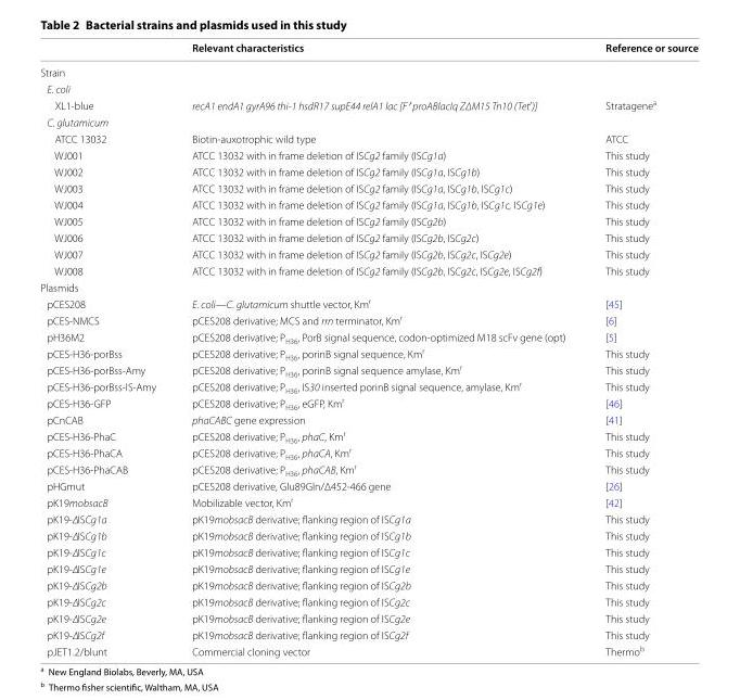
<table><thead><tr><td></td><td>Relevant characteristics</td><td>Reference or source</td></tr></thead><tbody><tr><td colspan="3">Strain</td></tr><tr><td colspan="3">E. coli</td></tr><tr><td>XL1-blue</td><td>recA1 endA1 gyrA96 thi-1 hsdR17 supE44 relA1 lac [F′ proABlacIq ZΔM15 Tn10 (Tet<sup>r</sup>)]</td><td>Stratagene<sup>a</sup></td></tr><tr><td colspan="3">C. glutamicum</td></tr><tr><td>ATCC 13032</td><td>Biotin-auxotrophic wild type</td><td>ATCC</td></tr><tr><td>WJ001</td><td>ATCC 13032 with in frame deletion of ISCg2 family (ISCg1a)</td><td>This study</td></tr><tr><td>WJ002</td><td>ATCC 13032 with in frame deletion of ISCg2 family (ISCg1a, ISCg1b)</td><td>This study</td></tr><tr><td>WJ003</td><td>ATCC 13032 with in frame deletion of ISCg2 family (ISCg1a, ISCg1b, ISCg1c)</td><td>This study</td></tr><tr><td>WJ004</td><td>ATCC 13032 with in frame deletion of ISCg2 family (ISCg1a, ISCg1b, ISCg1c, ISCg1e)</td><td>This study</td></tr><tr><td>WJ005</td><td>ATCC 13032 with in frame deletion of ISCg2 family (ISCg2b)</td><td>This study</td></tr><tr><td>WJ006</td><td>ATCC 13032 with in frame deletion of ISCg2 family (ISCg2b, ISCg2c)</td><td>This study</td></tr><tr><td>WJ007</td><td>ATCC 13032 with in frame deletion of ISCg2 family (ISCg2b, ISCg2c, ISCg2e)</td><td>This study</td></tr><tr><td>WJ008</td><td>ATCC 13032 with in frame deletion of ISCg2 family (ISCg2b, ISCg2c, ISCg2e, ISCg2f)</td><td>This study</td></tr><tr><td colspan="3">Plasmids</td></tr><tr><td>pCES208</td><td>E. coli—C. glutamicum shuttle vector, Km<sup>r</sup></td><td>[45]</td></tr><tr><td>pCES-NMCS</td><td>pCES208 derivative; MCS and rrn terminator, Km<sup>r</sup></td><td>[6]</td></tr><tr><td>pH36M2</td><td>pCES208 derivative; P<sub>H36</sub>, PorB signal sequence, codon-optimized M18 scFv gene (opt)</td><td>[5]</td></tr><tr><td>pCES-H36-porBss</td><td>pCES208 derivative; P<sub>H36</sub>, porinB signal sequence, Km<sup>r</sup></td><td>This study</td></tr><tr><td>pCES-H36-porBss-Amy</td><td>pCES208 derivative; P<sub>H36</sub>, porinB signal sequence amylase, Km<sup>r</sup></td><td>This study</td></tr><tr><td>pCES-H36-porBss-IS-Amy</td><td>pCES208 derivative; P<sub>H36</sub>, IS30 inserted porinB signal sequence, amylase, Km<sup>r</sup></td><td>This study</td></tr><tr><td>pCES-H36-GFP</td><td>pCES208 derivative; P<sub>H36</sub>, eGFP, Km<sup>r</sup></td><td>[46]</td></tr><tr><td>pCnCAB</td><td>phaCABC gene expression</td><td>[41]</td></tr><tr><td>pCES-H36-PhaC</td><td>pCES208 derivative; P<sub>H36</sub>, phaC, Km<sup>r</sup></td><td>This study</td></tr><tr><td>pCES-H36-PhaCA</td><td>pCES208 derivative; P<sub>H36</sub>, phaCA, Km<sup>r</sup></td><td>This study</td></tr><tr><td>pCES-H36-PhaCAB</td><td>pCES208 derivative; P<sub>H36</sub>, phaCAB, Km<sup>r</sup></td><td>This study</td></tr><tr><td>pHGmut</td><td>pCES208 derivative, Glu89Gln/Δ452-466 gene</td><td>[26]</td></tr><tr><td>pK19mobsacB</td><td>Mobilizable vector, Km<sup>r</sup></td><td>[42]</td></tr><tr><td>pK19-∆ISCg1a</td><td>pK19mobsacB derivative; flanking region of ISCg1a</td><td>This study</td></tr><tr><td>pK19-∆ISCg1b</td><td>pK19mobsacB derivative; flanking region of ISCg1b</td><td>This study</td></tr><tr><td>pK19-∆ISCg1c</td><td>pK19mobsacB derivative; flanking region of ISCg1c</td><td>This study</td></tr><tr><td>pK19-∆ISCg1e</td><td>pK19mobsacB derivative; flanking region of ISCg1e</td><td>This study</td></tr><tr><td>pK19-∆ISCg2b</td><td>pK19mobsacB derivative; flanking region of ISCg2b</td><td>This study</td></tr><tr><td>pK19-∆ISCg2c</td><td>pK19mobsacB derivative; flanking region of ISCg2c</td><td>This study</td></tr><tr><td>pK19-∆ISCg2e</td><td>pK19mobsacB derivative; flanking region of ISCg2e</td><td>This study</td></tr><tr><td>pK19-∆ISCg2f</td><td>pK19mobsacB derivative; flanking region of ISCg2f</td><td>This study</td></tr><tr><td>pJET1.2/blunt</td><td>Commercial cloning vector</td><td>Thermo<sup>b</sup></td></tr></tbody></table>